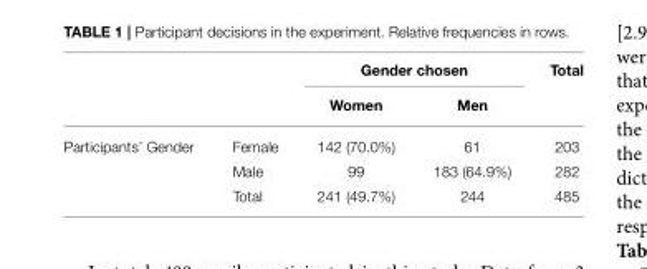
<table><thead><tr><td rowspan="2"></td><td rowspan="2"></td><td colspan="2">Gender chosen</td><td rowspan="2">Total</td></tr><tr><td>Women</td><td>Men</td></tr></thead><tbody><tr><td rowspan="3">Participants’ Gender</td><td>Female</td><td>142 (70.0%)</td><td>61</td><td>203</td></tr><tr><td>Male</td><td>99</td><td>183 (64.9%)</td><td>282</td></tr><tr><td>Total</td><td>241 (49.7%)</td><td>244</td><td>485</td></tr></tbody></table>